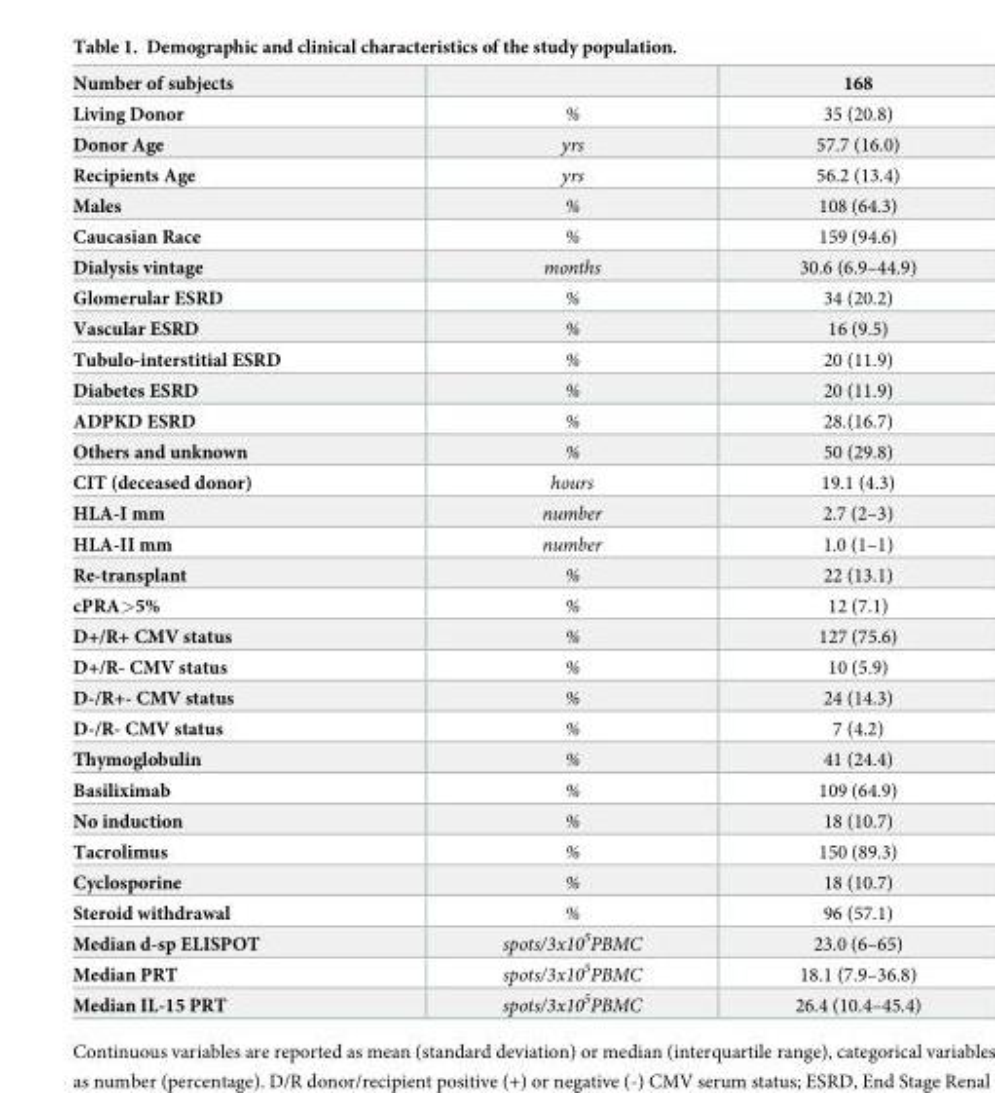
<table><thead><tr><td>Number of subjects</td><td></td><td>168</td></tr></thead><tbody><tr><td>Living Donor</td><td>%</td><td>35 (20.8)</td></tr><tr><td>Donor Age</td><td>yrs</td><td>57.7 (16.0)</td></tr><tr><td>Recipients Age</td><td>yrs</td><td>56.2 (13.4)</td></tr><tr><td>Males</td><td>%</td><td>108 (64.3)</td></tr><tr><td>Caucasian Race</td><td>%</td><td>159 (94.6)</td></tr><tr><td>Dialysis vintage</td><td>months</td><td>30.6 (6.9–44.9)</td></tr><tr><td>Glomerular ESRD</td><td>%</td><td>34 (20.2)</td></tr><tr><td>Vascular ESRD</td><td>%</td><td>16 (9.5)</td></tr><tr><td>Tubulo-interstitial ESRD</td><td>%</td><td>20 (11.9)</td></tr><tr><td>Diabetes ESRD</td><td>%</td><td>20 (11.9)</td></tr><tr><td>ADPKD ESRD</td><td>%</td><td>28.(16.7)</td></tr><tr><td>Others and unknown</td><td>%</td><td>50 (29.8)</td></tr><tr><td>CIT (deceased donor)</td><td>hours</td><td>19.1 (4.3)</td></tr><tr><td>HLA-I mm</td><td>number</td><td>2.7 (2–3)</td></tr><tr><td>HLA-II mm</td><td>number</td><td>1.0 (1–1)</td></tr><tr><td>Re-transplant</td><td>%</td><td>22 (13.1)</td></tr><tr><td>cPRA&gt;5%</td><td>%</td><td>12 (7.1)</td></tr><tr><td>D+/R+ CMV status</td><td>%</td><td>127 (75.6)</td></tr><tr><td>D+/R- CMV status</td><td>%</td><td>10 (5.9)</td></tr><tr><td>D-/R+- CMV status</td><td>%</td><td>24 (14.3)</td></tr><tr><td>D-/R- CMV status</td><td>%</td><td>7 (4.2)</td></tr><tr><td>Thymoglobulin</td><td>%</td><td>41 (24.4)</td></tr><tr><td>Basiliximab</td><td>%</td><td>109 (64.9)</td></tr><tr><td>No induction</td><td>%</td><td>18 (10.7)</td></tr><tr><td>Tacrolimus</td><td>%</td><td>150 (89.3)</td></tr><tr><td>Cyclosporine</td><td>%</td><td>18 (10.7)</td></tr><tr><td>Steroid withdrawal</td><td>%</td><td>96 (57.1)</td></tr><tr><td>Median d-sp ELISPOT</td><td>spots/3x10<sup>5</sup>PBMC</td><td>23.0 (6–65)</td></tr><tr><td>Median PRT</td><td>spots/3x10<sup>5</sup>PBMC</td><td>18.1 (7.9–36.8)</td></tr><tr><td>Median IL-15 PRT</td><td>spots/3x10<sup>5</sup>PBMC</td><td>26.4 (10.4–45.4)</td></tr></tbody></table>